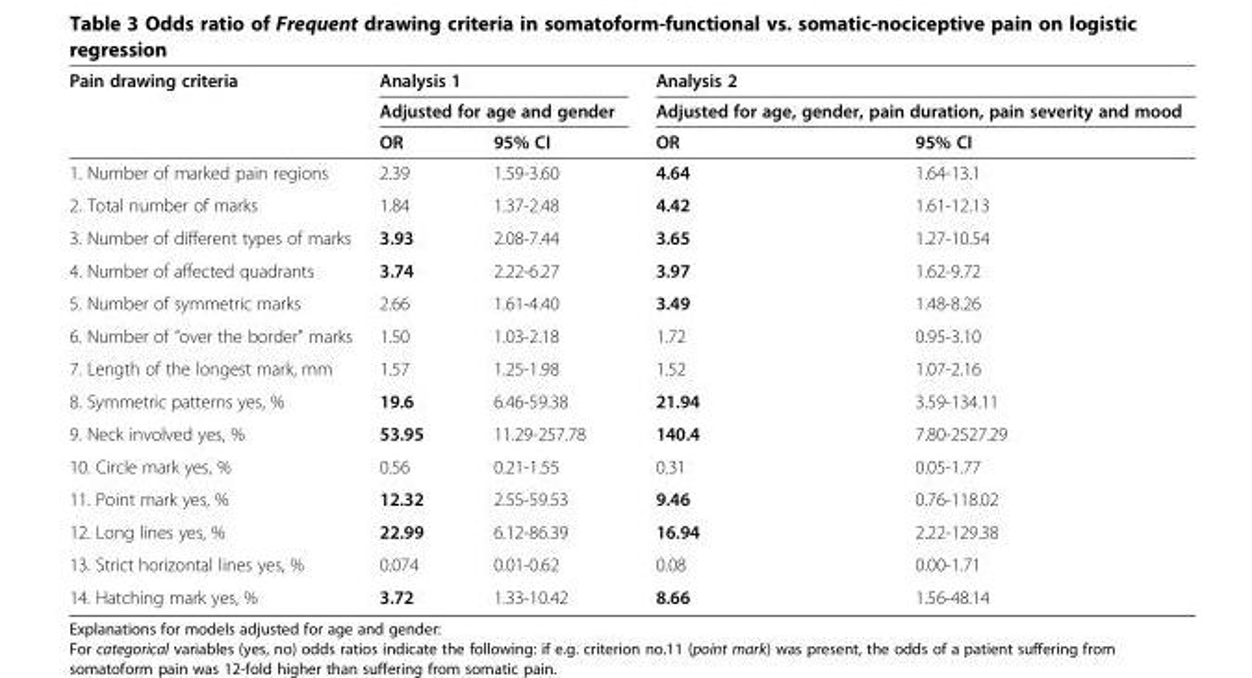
<table><thead><tr><td rowspan="3">Pain drawing criteria</td><td rowspan="2" colspan="2">Analysis 1 Adjusted for age and gender</td><td rowspan="2" colspan="2">Analysis 2 Adjusted for age, gender, pain duration, pain severity and mood</td></tr><tr></tr><tr><td>OR</td><td>95% CI</td><td>OR</td><td>95% CI</td></tr></thead><tbody><tr><td>1. Number of marked pain regions</td><td>2.39</td><td>1.59-3.60</td><td>4.64</td><td>1.64-13.1</td></tr><tr><td>2. Total number of marks</td><td>1.84</td><td>1.37-2.48</td><td>4.42</td><td>1.61-12.13</td></tr><tr><td>3. Number of different types of marks</td><td>3.93</td><td>2.08-7.44</td><td>3.65</td><td>1.27-10.54</td></tr><tr><td>4. Number of affected quadrants</td><td>3.74</td><td>2.22-6.27</td><td>3.97</td><td>1.62-9.72</td></tr><tr><td>5. Number of symmetric marks</td><td>2.66</td><td>1.61-4.40</td><td>3.49</td><td>1.48-8.26</td></tr><tr><td>6. Number of “over the border” marks</td><td>1.50</td><td>1.03-2.18</td><td>1.72</td><td>0.95-3.10</td></tr><tr><td>7. Length of the longest mark, mm</td><td>1.57</td><td>1.25-1.98</td><td>1.52</td><td>1.07-2.16</td></tr><tr><td>8. Symmetric patterns yes, %</td><td>19.6</td><td>6.46-59.38</td><td>21.94</td><td>3.59-134.11</td></tr><tr><td>9. Neck involved yes, %</td><td>53.95</td><td>11.29-257.78</td><td>140.4</td><td>7.80-2527.29</td></tr><tr><td>10. Circle mark yes, %</td><td>0.56</td><td>0.21-1.55</td><td>0.31</td><td>0.05-1.77</td></tr><tr><td>11. Point mark yes, %</td><td>12.32</td><td>2.55-59.53</td><td>9.46</td><td>0.76-118.02</td></tr><tr><td>12. Long lines yes, %</td><td>22.99</td><td>6.12-86.39</td><td>16.94</td><td>2.22-129.38</td></tr><tr><td>13. Strict horizontal lines yes, %</td><td>0.074</td><td>0.01-0.62</td><td>0.08</td><td>0.00-1.71</td></tr><tr><td>14. Hatching mark yes, %</td><td>3.72</td><td>1.33-10.42</td><td>8.66</td><td>1.56-48.14</td></tr></tbody></table>